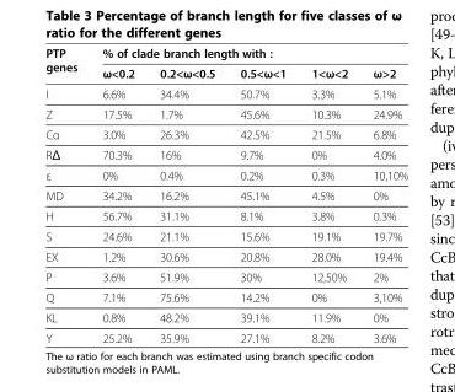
<table><thead><tr><td rowspan="2">PTP genes</td><td colspan="5">% of clade branch length with :</td></tr><tr><td>ω&lt;0.2</td><td>0.2&lt;ω&lt;0.5</td><td>0.5&lt;ω&lt;1</td><td>1&lt;ω&lt;2</td><td>ω&gt;2</td></tr></thead><tbody><tr><td>Ι</td><td>6.6%</td><td>34.4%</td><td>50.7%</td><td>3.3%</td><td>5.1%</td></tr><tr><td>Ζ</td><td>17.5%</td><td>1.7%</td><td>45.6%</td><td>10.3%</td><td>24.9%</td></tr><tr><td>Cα</td><td>3.0%</td><td>26.3%</td><td>42.5%</td><td>21.5%</td><td>6.8%</td></tr><tr><td>RΔ</td><td>70.3%</td><td>16%</td><td>9.7%</td><td>0%</td><td>4.0%</td></tr><tr><td>ε</td><td>0%</td><td>0.4%</td><td>0.2%</td><td>0.3%</td><td>10,10%</td></tr><tr><td>MD</td><td>34.2%</td><td>16.2%</td><td>45.1%</td><td>4.5%</td><td>0%</td></tr><tr><td>H</td><td>56.7%</td><td>31.1%</td><td>8.1%</td><td>3.8%</td><td>0.3%</td></tr><tr><td>S</td><td>24.6%</td><td>21.1%</td><td>15.6%</td><td>19.1%</td><td>19.7%</td></tr><tr><td>EX</td><td>1.2%</td><td>30.6%</td><td>20.8%</td><td>28.0%</td><td>19.4%</td></tr><tr><td>P</td><td>3.6%</td><td>51.9%</td><td>30%</td><td>12,50%</td><td>2%</td></tr><tr><td>Q</td><td>7.1%</td><td>75.6%</td><td>14.2%</td><td>0%</td><td>3,10%</td></tr><tr><td>KL</td><td>0.8%</td><td>48.2%</td><td>39.1%</td><td>11.9%</td><td>0%</td></tr><tr><td>Y</td><td>25.2%</td><td>35.9%</td><td>27.1%</td><td>8.2%</td><td>3.6%</td></tr></tbody></table>